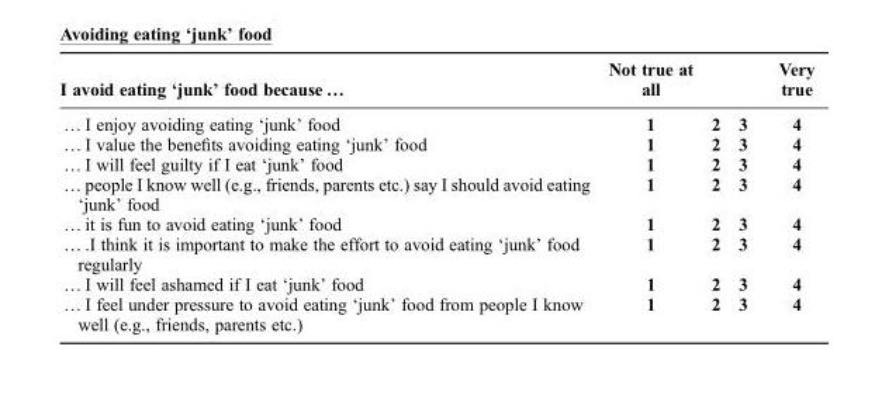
<table><thead><tr><td>I avoid eating ‘junk’ food because …</td><td>Not true at all</td><td></td><td></td><td>Very true</td></tr></thead><tbody><tr><td>… I enjoy avoiding eating ‘junk’ food</td><td>1</td><td>2</td><td>3</td><td>4</td></tr><tr><td>… I value the benefits avoiding eating ‘junk’ food</td><td>1</td><td>2</td><td>3</td><td>4</td></tr><tr><td>… I will feel guilty if I eat ‘junk’ food</td><td>1</td><td>2</td><td>3</td><td>4</td></tr><tr><td>… people I know well (e.g., friends, parents etc.) say I should avoid eating ‘junk’ food</td><td>1</td><td>2</td><td>3</td><td>4</td></tr><tr><td>… it is fun to avoid eating ‘junk’ food</td><td>1</td><td>2</td><td>3</td><td>4</td></tr><tr><td>… .I think it is important to make the effort to avoid eating ‘junk’ food regularly</td><td>1</td><td>2</td><td>3</td><td>4</td></tr><tr><td>… I will feel ashamed if I eat ‘junk’ food</td><td>1</td><td>2</td><td>3</td><td>4</td></tr><tr><td>… I feel under pressure to avoid eating ‘junk’ food from people I know well (e.g., friends, parents etc.)</td><td>1</td><td>2</td><td>3</td><td>4</td></tr></tbody></table>